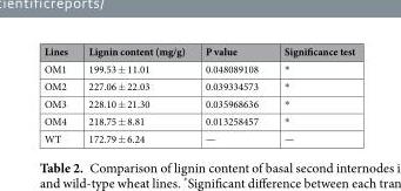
<table><thead><tr><td>Lines</td><td>Lignin content (mg/g)</td><td>P value</td><td>Significance test</td></tr></thead><tbody><tr><td>OM1</td><td>199.53 ± 11.01</td><td>0.048089108</td><td>*</td></tr><tr><td>OM2</td><td>227.06 ± 22.03</td><td>0.039334573</td><td>*</td></tr><tr><td>OM3</td><td>228.10 ± 21.30</td><td>0.035968636</td><td>*</td></tr><tr><td>OM4</td><td>218.75 ± 8.81</td><td>0.013258457</td><td>*</td></tr><tr><td>WT</td><td>172.79 ± 6.24</td><td>—</td><td>—</td></tr></tbody></table>